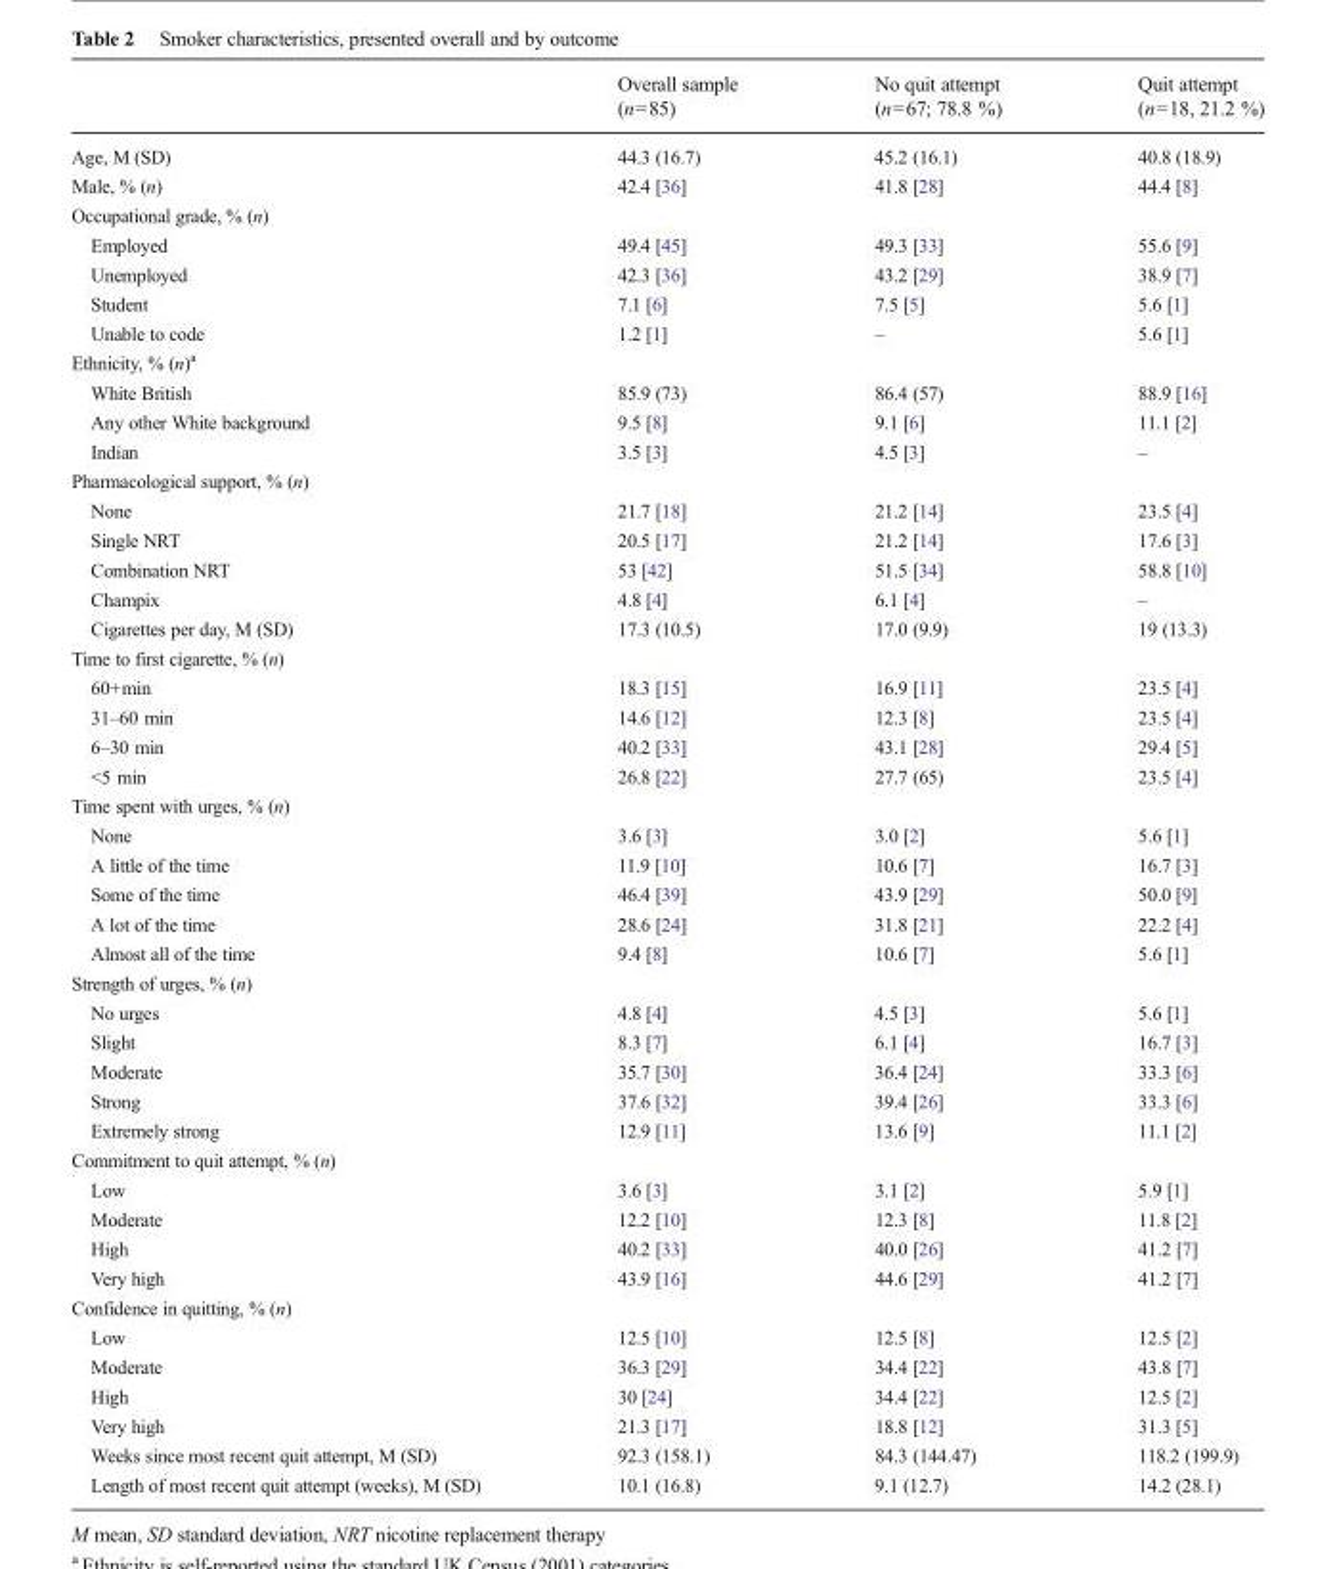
<table><thead><tr><td></td><td>Overall sample (n=85)</td><td>No quit attempt (n=67; 78.8 %)</td><td>Quit attempt (n=18, 21.2 %)</td></tr></thead><tbody><tr><td>Age, M (SD)</td><td>44.3 (16.7)</td><td>45.2 (16.1)</td><td>40.8 (18.9)</td></tr><tr><td>Male, % (n)</td><td>42.4 [36]</td><td>41.8 [28]</td><td>44.4 [8]</td></tr><tr><td colspan="4">Occupational grade, % (n)</td></tr><tr><td>Employed</td><td>49.4 [45]</td><td>49.3 [33]</td><td>55.6 [9]</td></tr><tr><td>Unemployed</td><td>42.3 [36]</td><td>43.2 [29]</td><td>38.9 [7]</td></tr><tr><td>Student</td><td>7.1 [6]</td><td>7.5 [5]</td><td>5.6 [1]</td></tr><tr><td>Unable to code</td><td>1.2 [1]</td><td>–</td><td>5.6 [1]</td></tr><tr><td colspan="4">Ethnicity, % (n)<sup>a</sup></td></tr><tr><td>White British</td><td>85.9 (73)</td><td>86.4 (57)</td><td>88.9 [16]</td></tr><tr><td>Any other White background</td><td>9.5 [8]</td><td>9.1 [6]</td><td>11.1 [2]</td></tr><tr><td>Indian</td><td>3.5 [3]</td><td>4.5 [3]</td><td>–</td></tr><tr><td colspan="4">Pharmacological support, % (n)</td></tr><tr><td>None</td><td>21.7 [18]</td><td>21.2 [14]</td><td>23.5 [4]</td></tr><tr><td>Single NRT</td><td>20.5 [17]</td><td>21.2 [14]</td><td>17.6 [3]</td></tr><tr><td>Combination NRT</td><td>53 [42]</td><td>51.5 [34]</td><td>58.8 [10]</td></tr><tr><td>Champix</td><td>4.8 [4]</td><td>6.1 [4]</td><td>–</td></tr><tr><td>Cigarettes per day, M (SD)</td><td>17.3 (10.5)</td><td>17.0 (9.9)</td><td>19 (13.3)</td></tr><tr><td colspan="4">Time to first cigarette, % (n)</td></tr><tr><td>60+min</td><td>18.3 [15]</td><td>16.9 [11]</td><td>23.5 [4]</td></tr><tr><td>31–60 min</td><td>14.6 [12]</td><td>12.3 [8]</td><td>23.5 [4]</td></tr><tr><td>6–30 min</td><td>40.2 [33]</td><td>43.1 [28]</td><td>29.4 [5]</td></tr><tr><td>&lt;5 min</td><td>26.8 [22]</td><td>27.7 (65)</td><td>23.5 [4]</td></tr><tr><td colspan="4">Time spent with urges, % (n)</td></tr><tr><td>None</td><td>3.6 [3]</td><td>3.0 [2]</td><td>5.6 [1]</td></tr><tr><td>A little of the time</td><td>11.9 [10]</td><td>10.6 [7]</td><td>16.7 [3]</td></tr><tr><td>Some of the time</td><td>46.4 [39]</td><td>43.9 [29]</td><td>50.0 [9]</td></tr><tr><td>A lot of the time</td><td>28.6 [24]</td><td>31.8 [21]</td><td>22.2 [4]</td></tr><tr><td>Almost all of the time</td><td>9.4 [8]</td><td>10.6 [7]</td><td>5.6 [1]</td></tr><tr><td colspan="4">Strength of urges, % (n)</td></tr><tr><td>No urges</td><td>4.8 [4]</td><td>4.5 [3]</td><td>5.6 [1]</td></tr><tr><td>Slight</td><td>8.3 [7]</td><td>6.1 [4]</td><td>16.7 [3]</td></tr><tr><td>Moderate</td><td>35.7 [30]</td><td>36.4 [24]</td><td>33.3 [6]</td></tr><tr><td>Strong</td><td>37.6 [32]</td><td>39.4 [26]</td><td>33.3 [6]</td></tr><tr><td>Extremely strong</td><td>12.9 [11]</td><td>13.6 [9]</td><td>11.1 [2]</td></tr><tr><td colspan="4">Commitment to quit attempt, % (n)</td></tr><tr><td>Low</td><td>3.6 [3]</td><td>3.1 [2]</td><td>5.9 [1]</td></tr><tr><td>Moderate</td><td>12.2 [10]</td><td>12.3 [8]</td><td>11.8 [2]</td></tr><tr><td>High</td><td>40.2 [33]</td><td>40.0 [26]</td><td>41.2 [7]</td></tr><tr><td>Very high</td><td>43.9 [16]</td><td>44.6 [29]</td><td>41.2 [7]</td></tr><tr><td colspan="4">Confidence in quitting, % (n)</td></tr><tr><td>Low</td><td>12.5 [10]</td><td>12.5 [8]</td><td>12.5 [2]</td></tr><tr><td>Moderate</td><td>36.3 [29]</td><td>34.4 [22]</td><td>43.8 [7]</td></tr><tr><td>High</td><td>30 [24]</td><td>34.4 [22]</td><td>12.5 [2]</td></tr><tr><td>Very high</td><td>21.3 [17]</td><td>18.8 [12]</td><td>31.3 [5]</td></tr><tr><td>Weeks since most recent quit attempt, M (SD)</td><td>92.3 (158.1)</td><td>84.3 (144.47)</td><td>118.2 (199.9)</td></tr><tr><td>Length of most recent quit attempt (weeks), M (SD)</td><td>10.1 (16.8)</td><td>9.1 (12.7)</td><td>14.2 (28.1)</td></tr></tbody></table>